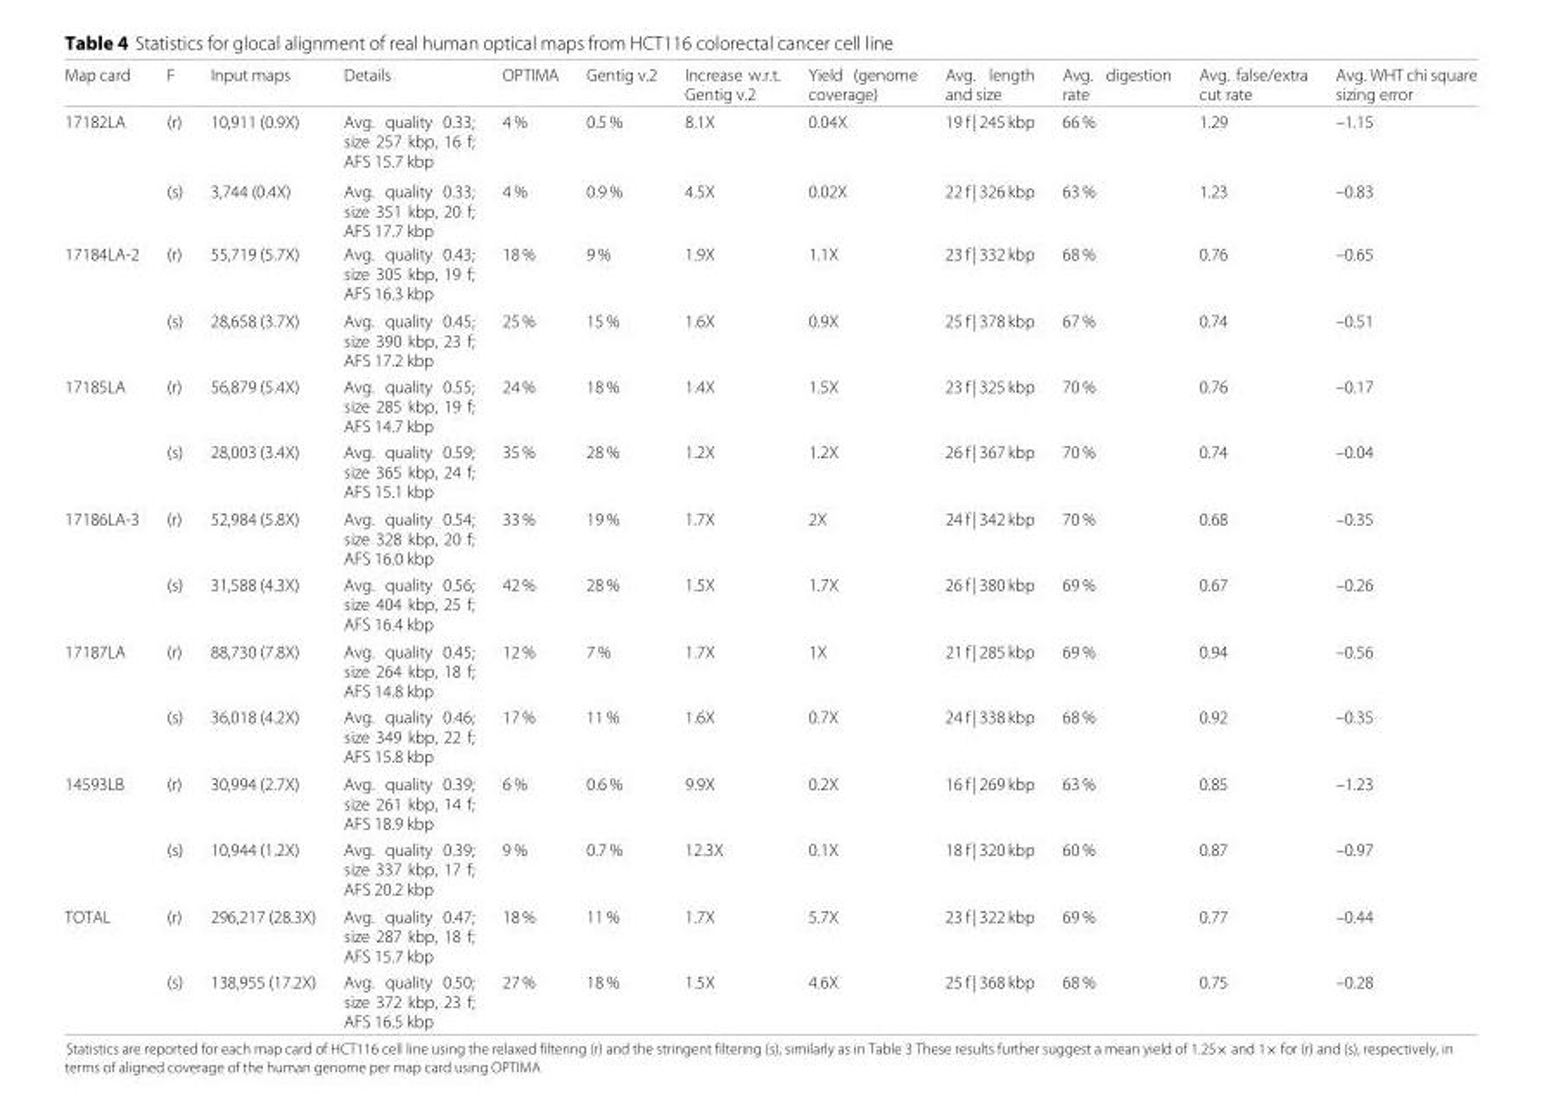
<table><thead><tr><td>Map card</td><td>F</td><td>Input maps</td><td>Details</td><td>OPTIMA</td><td>Gentig v.2</td><td>Increase w.r.t. Gentig v.2</td><td>Yield (genome coverage)</td><td>Avg. length and size</td><td>Avg. digestion rate</td><td>Avg. false/extra cut rate</td><td>Avg. WHT chi square sizing error</td></tr></thead><tbody><tr><td rowspan="2">17182LA</td><td>(r)</td><td>10,911 (0.9X)</td><td>Avg. quality 0.33; size 257 kbp, 16 f; AFS 15.7 kbp</td><td>4 %</td><td>0.5 %</td><td>8.1X</td><td>0.04X</td><td>19 f | 245 kbp</td><td>66 %</td><td>1.29</td><td>–1.15</td></tr><tr><td>(s)</td><td>3,744 (0.4X)</td><td>Avg. quality 0.33; size 351 kbp, 20 f; AFS 17.7 kbp</td><td>4 %</td><td>0.9 %</td><td>4.5X</td><td>0.02X</td><td>22 f | 326 kbp</td><td>63 %</td><td>1.23</td><td>–0.83</td></tr><tr><td rowspan="2">17184LA-2</td><td>(r)</td><td>55,719 (5.7X)</td><td>Avg. quality 0.43; size 305 kbp, 19 f; AFS 16.3 kbp</td><td>18 %</td><td>9 %</td><td>1.9X</td><td>1.1X</td><td>23 f | 332 kbp</td><td>68 %</td><td>0.76</td><td>–0.65</td></tr><tr><td>(s)</td><td>28,658 (3.7X)</td><td>Avg. quality 0.45; size 390 kbp, 23 f; AFS 17.2 kbp</td><td>25 %</td><td>15 %</td><td>1.6X</td><td>0.9X</td><td>25 f | 378 kbp</td><td>67 %</td><td>0.74</td><td>–0.51</td></tr><tr><td rowspan="2">17185LA</td><td>(r)</td><td>56,879 (5.4X)</td><td>Avg. quality 0.55; size 285 kbp, 19 f; AFS 14.7 kbp</td><td>24 %</td><td>18 %</td><td>1.4X</td><td>1.5X</td><td>23 f | 325 kbp</td><td>70 %</td><td>0.76</td><td>–0.17</td></tr><tr><td>(s)</td><td>28,003 (3.4X)</td><td>Avg. quality 0.59; size 365 kbp, 24 f; AFS 15.1 kbp</td><td>35 %</td><td>28 %</td><td>1.2X</td><td>1.2X</td><td>26 f | 367 kbp</td><td>70 %</td><td>0.74</td><td>–0.04</td></tr><tr><td rowspan="2">17186LA-3</td><td>(r)</td><td>52,984 (5.8X)</td><td>Avg. quality 0.54; size 328 kbp, 20 f; AFS 16.0 kbp</td><td>33 %</td><td>19 %</td><td>1.7X</td><td>2X</td><td>24 f | 342 kbp</td><td>70 %</td><td>0.68</td><td>–0.35</td></tr><tr><td>(s)</td><td>31,588 (4.3X)</td><td>Avg. quality 0.56; size 404 kbp, 25 f; AFS 16.4 kbp</td><td>42 %</td><td>28 %</td><td>1.5X</td><td>1.7X</td><td>26 f | 380 kbp</td><td>69 %</td><td>0.67</td><td>–0.26</td></tr><tr><td rowspan="2">17187LA</td><td>(r)</td><td>88,730 (7.8X)</td><td>Avg. quality 0.45; size 264 kbp, 18 f; AFS 14.8 kbp</td><td>12 %</td><td>7 %</td><td>1.7X</td><td>1X</td><td>21 f | 285 kbp</td><td>69 %</td><td>0.94</td><td>–0.56</td></tr><tr><td>(s)</td><td>36,018 (4.2X)</td><td>Avg. quality 0.46; size 349 kbp, 22 f; AFS 15.8 kbp</td><td>17 %</td><td>11 %</td><td>1.6X</td><td>0.7X</td><td>24 f | 338 kbp</td><td>68 %</td><td>0.92</td><td>–0.35</td></tr><tr><td rowspan="2">14593LB</td><td>(r)</td><td>30,994 (2.7X)</td><td>Avg. quality 0.39; size 261 kbp, 14 f; AFS 18.9 kbp</td><td>6 %</td><td>0.6 %</td><td>9.9X</td><td>0.2X</td><td>16 f | 269 kbp</td><td>63 %</td><td>0.85</td><td>–1.23</td></tr><tr><td>(s)</td><td>10,944 (1.2X)</td><td>Avg. quality 0.39; size 337 kbp, 17 f; AFS 20.2 kbp</td><td>9 %</td><td>0.7 %</td><td>12.3X</td><td>0.1X</td><td>18 f | 320 kbp</td><td>60 %</td><td>0.87</td><td>–0.97</td></tr><tr><td rowspan="2">TOTAL</td><td>(r)</td><td>296,217 (28.3X)</td><td>Avg. quality 0.47; size 287 kbp, 18 f; AFS 15.7 kbp</td><td>18 %</td><td>11 %</td><td>1.7X</td><td>5.7X</td><td>23 f | 322 kbp</td><td>69 %</td><td>0.77</td><td>–0.44</td></tr><tr><td>(s)</td><td>138,955 (17.2X)</td><td>Avg. quality 0.50; size 372 kbp, 23 f; AFS 16.5 kbp</td><td>27 %</td><td>18 %</td><td>1.5X</td><td>4.6X</td><td>25 f | 368 kbp</td><td>68 %</td><td>0.75</td><td>–0.28</td></tr></tbody></table>